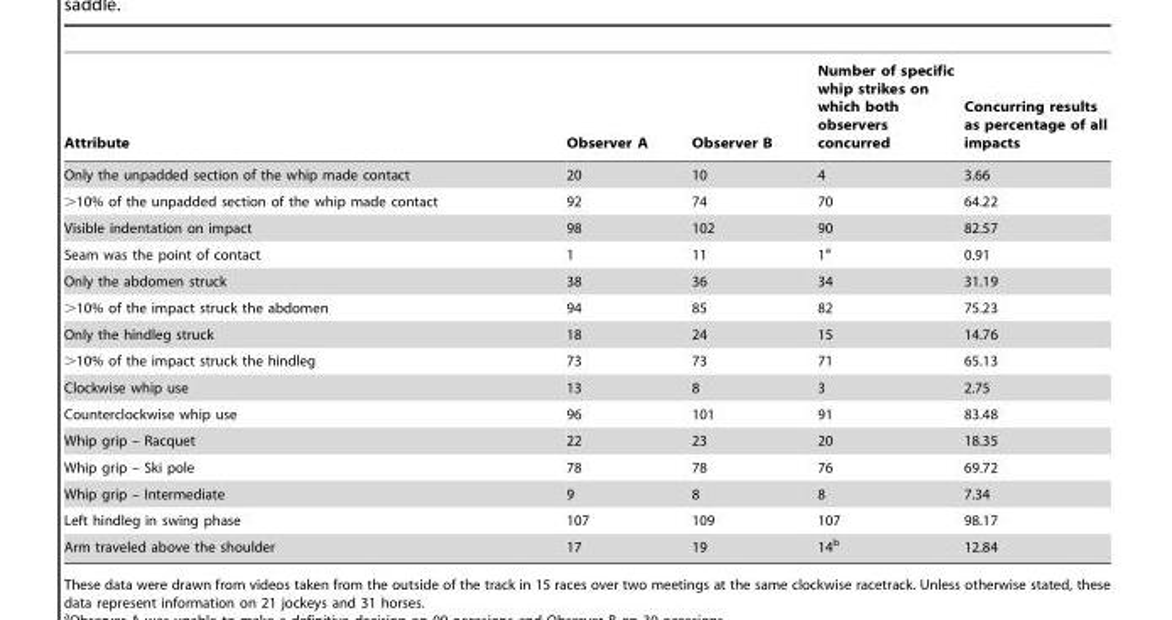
<table><thead><tr><td>Attribute</td><td>Observer A</td><td>Observer B</td><td>Number of specific whip strikes on which both observers concurred</td><td>Concurring results as percentage of all impacts</td></tr></thead><tbody><tr><td>Only the unpadded section of the whip made contact</td><td>20</td><td>10</td><td>4</td><td>3.66</td></tr><tr><td>&gt;10% of the unpadded section of the whip made contact</td><td>92</td><td>74</td><td>70</td><td>64.22</td></tr><tr><td>Visible indentation on impact</td><td>98</td><td>102</td><td>90</td><td>82.57</td></tr><tr><td>Seam was the point of contact</td><td>1</td><td>11</td><td>1<sup>a</sup></td><td>0.91</td></tr><tr><td>Only the abdomen struck</td><td>38</td><td>36</td><td>34</td><td>31.19</td></tr><tr><td>&gt;10% of the impact struck the abdomen</td><td>94</td><td>85</td><td>82</td><td>75.23</td></tr><tr><td>Only the hindleg struck</td><td>18</td><td>24</td><td>15</td><td>14.76</td></tr><tr><td>&gt;10% of the impact struck the hindleg</td><td>73</td><td>73</td><td>71</td><td>65.13</td></tr><tr><td>Clockwise whip use</td><td>13</td><td>8</td><td>3</td><td>2.75</td></tr><tr><td>Counterclockwise whip use</td><td>96</td><td>101</td><td>91</td><td>83.48</td></tr><tr><td>Whip grip – Racquet</td><td>22</td><td>23</td><td>20</td><td>18.35</td></tr><tr><td>Whip grip – Ski pole</td><td>78</td><td>78</td><td>76</td><td>69.72</td></tr><tr><td>Whip grip – Intermediate</td><td>9</td><td>8</td><td>8</td><td>7.34</td></tr><tr><td>Left hindleg in swing phase</td><td>107</td><td>109</td><td>107</td><td>98.17</td></tr><tr><td>Arm traveled above the shoulder</td><td>17</td><td>19</td><td>14<sup>b</sup></td><td>12.84</td></tr></tbody></table>